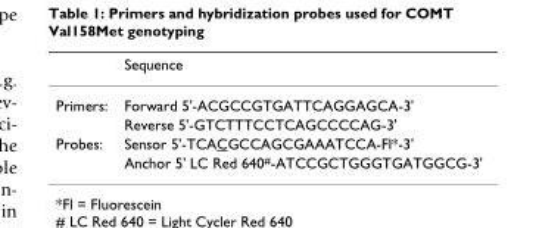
<table><thead><tr><td></td><td>Sequence</td></tr></thead><tbody><tr><td rowspan="2">Primers:</td><td>Forward 5&#x27;-ACGCCGTGATTCAGGAGCA-3&#x27;</td></tr><tr><td>Reverse 5&#x27;-GTCTTTCCTCAGCCCCAG-3&#x27;</td></tr><tr><td rowspan="2">Probes:</td><td>Sensor 5&#x27;-TCACGCCAGCGAAATCCA-Fl*-3&#x27;</td></tr><tr><td>Anchor 5&#x27; LC Red 640<sup>#</sup>-ATCCGCTGGGTGATGGCG-3&#x27;</td></tr></tbody></table>